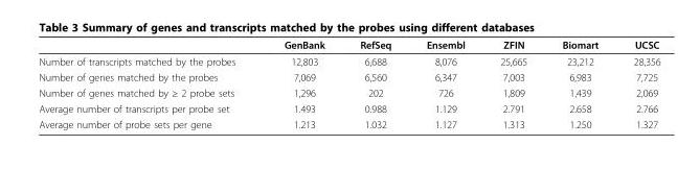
<table><thead><tr><td></td><td>GenBank</td><td>RefSeq</td><td>Ensembl</td><td>ZFIN</td><td>Biomart</td><td>UCSC</td></tr></thead><tbody><tr><td>Number of transcripts matched by the probes</td><td>12,803</td><td>6,688</td><td>8,076</td><td>25,665</td><td>23,212</td><td>28,356</td></tr><tr><td>Number of genes matched by the probes</td><td>7,069</td><td>6,560</td><td>6,347</td><td>7,003</td><td>6,983</td><td>7,725</td></tr><tr><td>Number of genes matched by ≥ 2 probe sets</td><td>1,296</td><td>202</td><td>726</td><td>1,809</td><td>1,439</td><td>2,069</td></tr><tr><td>Average number of transcripts per probe set</td><td>1.493</td><td>0.988</td><td>1.129</td><td>2.791</td><td>2.658</td><td>2.766</td></tr><tr><td>Average number of probe sets per gene</td><td>1.213</td><td>1.032</td><td>1.127</td><td>1.313</td><td>1.250</td><td>1.327</td></tr></tbody></table>